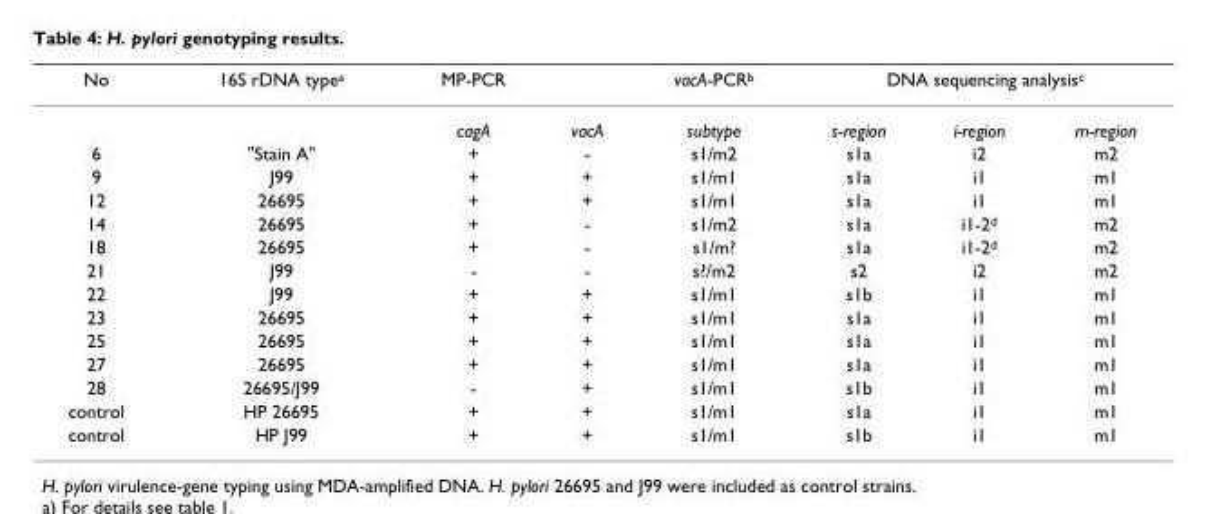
<table><thead><tr><td rowspan="2">No</td><td rowspan="2">16S rDNA type<sup>a</sup></td><td rowspan="2">MP-PCR cagA</td><td rowspan="2">vacA</td><td rowspan="2">vacA-PCR<sup>b</sup> subtype</td><td colspan="3">DNA sequencing analysis<sup>c</sup></td></tr><tr><td>s-region</td><td>i-region</td><td>m-region</td></tr></thead><tbody><tr><td>6</td><td>&quot;Stain A&quot;</td><td>+</td><td>-</td><td>s1/m2</td><td>s1a</td><td>i2</td><td>m2</td></tr><tr><td>9</td><td>J99</td><td>+</td><td>+</td><td>s1/m1</td><td>s1a</td><td>i1</td><td>m1</td></tr><tr><td>12</td><td>26695</td><td>+</td><td>+</td><td>s1/m1</td><td>s1a</td><td>i1</td><td>m1</td></tr><tr><td>14</td><td>26695</td><td>+</td><td>-</td><td>s1/m2</td><td>s1a</td><td>i1-2<sup>d</sup></td><td>m2</td></tr><tr><td>18</td><td>26695</td><td>+</td><td>-</td><td>s1/m?</td><td>s1a</td><td>i1-2<sup>d</sup></td><td>m2</td></tr><tr><td>21</td><td>J99</td><td>-</td><td>-</td><td>s?/m2</td><td>s2</td><td>i2</td><td>m2</td></tr><tr><td>22</td><td>J99</td><td>+</td><td>+</td><td>s1/m1</td><td>s1b</td><td>i1</td><td>m1</td></tr><tr><td>23</td><td>26695</td><td>+</td><td>+</td><td>s1/m1</td><td>s1a</td><td>i1</td><td>m1</td></tr><tr><td>25</td><td>26695</td><td>+</td><td>+</td><td>s1/m1</td><td>s1a</td><td>i1</td><td>m1</td></tr><tr><td>27</td><td>26695</td><td>+</td><td>+</td><td>s1/m1</td><td>s1a</td><td>i1</td><td>m1</td></tr><tr><td>28</td><td>26695/J99</td><td>-</td><td>+</td><td>s1/m1</td><td>s1b</td><td>i1</td><td>m1</td></tr><tr><td>control</td><td>HP 26695</td><td>+</td><td>+</td><td>s1/m1</td><td>s1a</td><td>i1</td><td>m1</td></tr><tr><td>control</td><td>HP J99</td><td>+</td><td>+</td><td>s1/m1</td><td>s1b</td><td>i1</td><td>m1</td></tr></tbody></table>